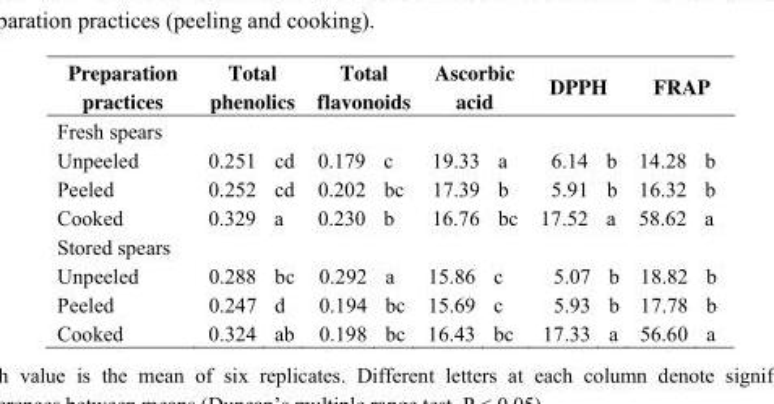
<table><thead><tr><td>Preparation practices</td><td colspan="2">Total phenolics</td><td colspan="2">Total flavonoids</td><td colspan="2">Ascorbic acid</td><td colspan="2">DPPH</td><td colspan="2">FRAP</td></tr><tr><td colspan="11">Fresh spears</td></tr><tr><td>Unpeeled</td><td>0.251</td><td>cd</td><td>0.179</td><td>c</td><td>19.33</td><td>a</td><td>6.14</td><td>b</td><td>14.28</td><td>b</td></tr></thead><tbody><tr><td>Peeled</td><td>0.252</td><td>cd</td><td>0.202</td><td>bc</td><td>17.39</td><td>b</td><td>5.91</td><td>b</td><td>16.32</td><td>b</td></tr><tr><td>Cooked</td><td>0.329</td><td>a</td><td>0.230</td><td>b</td><td>16.76</td><td>bc</td><td>17.52</td><td>a</td><td>58.62</td><td>a</td></tr><tr><td colspan="11">Stored spears</td></tr><tr><td>Unpeeled</td><td>0.288</td><td>bc</td><td>0.292</td><td>a</td><td>15.86</td><td>c</td><td>5.07</td><td>b</td><td>18.82</td><td>b</td></tr><tr><td>Peeled</td><td>0.247</td><td>d</td><td>0.194</td><td>bc</td><td>15.69</td><td>c</td><td>5.93</td><td>b</td><td>17.78</td><td>b</td></tr><tr><td>Cooked</td><td>0.324</td><td>ab</td><td>0.198</td><td>bc</td><td>16.43</td><td>bc</td><td>17.33</td><td>a</td><td>56.60</td><td>a</td></tr></tbody></table>